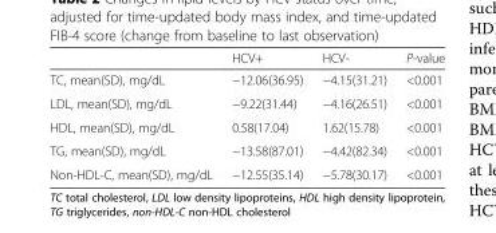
<table><thead><tr><td></td><td>HCV+</td><td>HCV-</td><td>P-value</td></tr></thead><tbody><tr><td>TC, mean(SD), mg/dL</td><td>−12.06(36.95)</td><td>−4.15(31.21)</td><td>&lt;0.001</td></tr><tr><td>LDL, mean(SD), mg/dL</td><td>−9.22(31.44)</td><td>−4.16(26.51)</td><td>&lt;0.001</td></tr><tr><td>HDL, mean(SD), mg/dL</td><td>0.58(17.04)</td><td>1.62(15.78)</td><td>&lt;0.001</td></tr><tr><td>TG, mean(SD), mg/dL</td><td>−13.58(87.01)</td><td>−4.42(82.34)</td><td>&lt;0.001</td></tr><tr><td>Non-HDL-C, mean(SD), mg/dL</td><td>−12.55(35.14)</td><td>−5.78(30.17)</td><td>&lt;0.001</td></tr></tbody></table>